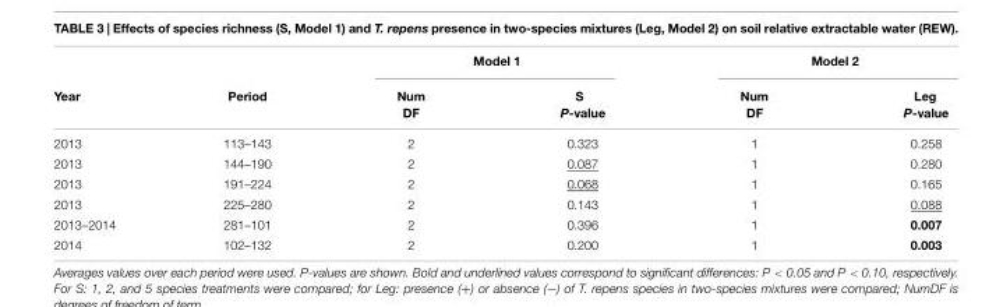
<table><thead><tr><td rowspan="2">Year</td><td rowspan="2">Period</td><td colspan="2">Model 1</td><td colspan="2">Model 2</td></tr><tr><td>Num DF</td><td>S P-value</td><td>Num DF</td><td>Leg P-value</td></tr></thead><tbody><tr><td>2013</td><td>113–143</td><td>2</td><td>0.323</td><td>1</td><td>0.258</td></tr><tr><td>2013</td><td>144–190</td><td>2</td><td>0.087</td><td>1</td><td>0.280</td></tr><tr><td>2013</td><td>191–224</td><td>2</td><td>0.068</td><td>1</td><td>0.165</td></tr><tr><td>2013</td><td>225–280</td><td>2</td><td>0.143</td><td>1</td><td>0.088</td></tr><tr><td>2013–2014</td><td>281–101</td><td>2</td><td>0.396</td><td>1</td><td>0.007</td></tr><tr><td>2014</td><td>102–132</td><td>2</td><td>0.200</td><td>1</td><td>0.003</td></tr></tbody></table>